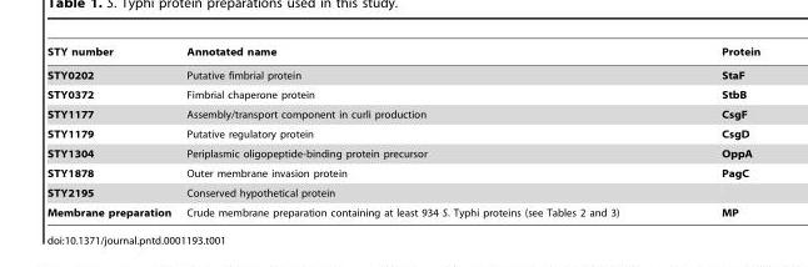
<table><thead><tr><td>STY number</td><td>Annotated name</td><td>Protein</td></tr></thead><tbody><tr><td>STY0202</td><td>Putative fimbrial protein</td><td>StaF</td></tr><tr><td>STY0372</td><td>Fimbrial chaperone protein</td><td>StbB</td></tr><tr><td>STY1177</td><td>Assembly/transport component in curli production</td><td>CsgF</td></tr><tr><td>STY1179</td><td>Putative regulatory protein</td><td>CsgD</td></tr><tr><td>STY1304</td><td>Periplasmic oligopeptide-binding protein precursor</td><td>OppA</td></tr><tr><td>STY1878</td><td>Outer membrane invasion protein</td><td>PagC</td></tr><tr><td>STY2195</td><td>Conserved hypothetical protein</td><td></td></tr><tr><td>Membrane preparation</td><td>Crude membrane preparation containing at least 934 S. Typhi proteins (see Tables 2 and 3)</td><td>MP</td></tr></tbody></table>